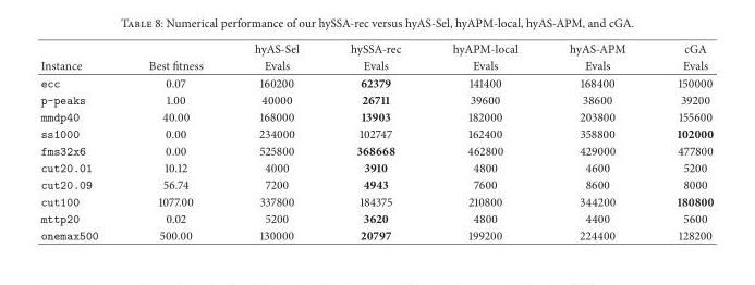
<table><thead><tr><td rowspan="2">Instance</td><td rowspan="2">Best fitness</td><td rowspan="2">hyAS-Sel Evals</td><td rowspan="2">hySSA-rec Evals</td><td rowspan="2">hyAPM-local Evals</td><td rowspan="2">hyAS-APM Evals</td><td rowspan="2">cGA Evals</td></tr><tr></tr></thead><tbody><tr><td>ecc</td><td>0.07</td><td>160200</td><td>62379</td><td>141400</td><td>168400</td><td>150000</td></tr><tr><td>p-peaks</td><td>1.00</td><td>40000</td><td>26711</td><td>39600</td><td>38600</td><td>39200</td></tr><tr><td>mmdp40</td><td>40.00</td><td>168000</td><td>13903</td><td>182000</td><td>203800</td><td>155600</td></tr><tr><td>ss1000</td><td>0.00</td><td>234000</td><td>102747</td><td>162400</td><td>358800</td><td>102000</td></tr><tr><td>fms32x6</td><td>0.00</td><td>525800</td><td>368668</td><td>462800</td><td>429000</td><td>477800</td></tr><tr><td>cut20.01</td><td>10.12</td><td>4000</td><td>3910</td><td>4800</td><td>4600</td><td>5200</td></tr><tr><td>cut20.09</td><td>56.74</td><td>7200</td><td>4943</td><td>7600</td><td>8600</td><td>8000</td></tr><tr><td>cut100</td><td>1077.00</td><td>337800</td><td>184375</td><td>210800</td><td>344200</td><td>180800</td></tr><tr><td>mttp20</td><td>0.02</td><td>5200</td><td>3620</td><td>4800</td><td>4400</td><td>5600</td></tr><tr><td>onemax500</td><td>500.00</td><td>130000</td><td>20797</td><td>199200</td><td>224400</td><td>128200</td></tr></tbody></table>